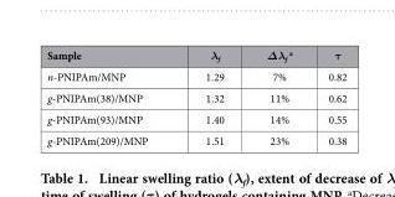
<table><thead><tr><td>Sample</td><td>λ<sub>f</sub></td><td>Δλ<sub>f</sub> <sup>a</sup></td><td>τ</td></tr></thead><tbody><tr><td>n-PNIPAm/MNP</td><td>1.29</td><td>7%</td><td>0.82</td></tr><tr><td>g-PNIPAm(38)/MNP</td><td>1.32</td><td>11%</td><td>0.62</td></tr><tr><td>g-PNIPAm(93)/MNP</td><td>1.40</td><td>14%</td><td>0.55</td></tr><tr><td>g-PNIPAm(209)/MNP</td><td>1.51</td><td>23%</td><td>0.38</td></tr></tbody></table>